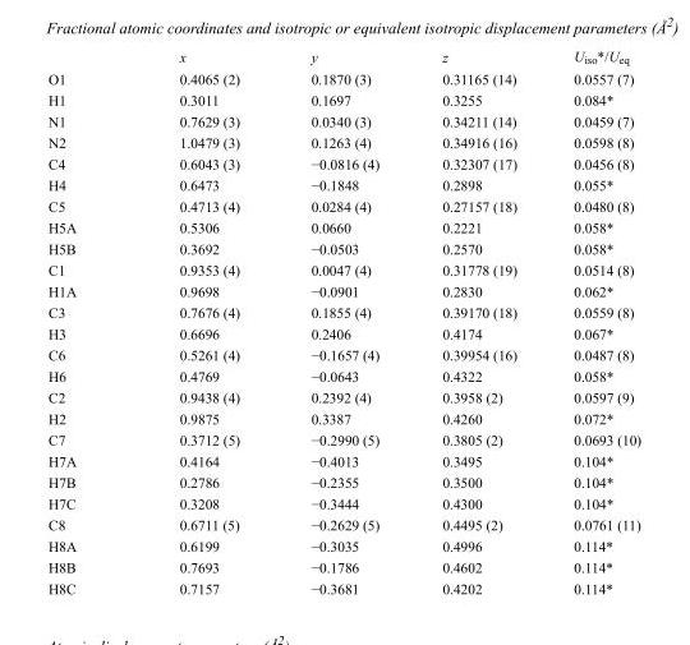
<table><thead><tr><td></td><td>x</td><td>y</td><td>z</td><td>U<sub>iso</sub>*/U<sub>eq</sub></td></tr></thead><tbody><tr><td>O1</td><td>0.4065 (2)</td><td>0.1870 (3)</td><td>0.31165 (14)</td><td>0.0557 (7)</td></tr><tr><td>H1</td><td>0.3011</td><td>0.1697</td><td>0.3255</td><td>0.084*</td></tr><tr><td>N1</td><td>0.7629 (3)</td><td>0.0340 (3)</td><td>0.34211 (14)</td><td>0.0459 (7)</td></tr><tr><td>N2</td><td>1.0479 (3)</td><td>0.1263 (4)</td><td>0.34916 (16)</td><td>0.0598 (8)</td></tr><tr><td>C4</td><td>0.6043 (3)</td><td>−0.0816 (4)</td><td>0.32307 (17)</td><td>0.0456 (8)</td></tr><tr><td>H4</td><td>0.6473</td><td>−0.1848</td><td>0.2898</td><td>0.055*</td></tr><tr><td>C5</td><td>0.4713 (4)</td><td>0.0284 (4)</td><td>0.27157 (18)</td><td>0.0480 (8)</td></tr><tr><td>H5A</td><td>0.5306</td><td>0.0660</td><td>0.2221</td><td>0.058*</td></tr><tr><td>H5B</td><td>0.3692</td><td>−0.0503</td><td>0.2570</td><td>0.058*</td></tr><tr><td>C1</td><td>0.9353 (4)</td><td>0.0047 (4)</td><td>0.31778 (19)</td><td>0.0514 (8)</td></tr><tr><td>H1A</td><td>0.9698</td><td>−0.0901</td><td>0.2830</td><td>0.062*</td></tr><tr><td>C3</td><td>0.7676 (4)</td><td>0.1855 (4)</td><td>0.39170 (18)</td><td>0.0559 (8)</td></tr><tr><td>H3</td><td>0.6696</td><td>0.2406</td><td>0.4174</td><td>0.067*</td></tr><tr><td>C6</td><td>0.5261 (4)</td><td>−0.1657 (4)</td><td>0.39954 (16)</td><td>0.0487 (8)</td></tr><tr><td>H6</td><td>0.4769</td><td>−0.0643</td><td>0.4322</td><td>0.058*</td></tr><tr><td>C2</td><td>0.9438 (4)</td><td>0.2392 (4)</td><td>0.3958 (2)</td><td>0.0597 (9)</td></tr><tr><td>H2</td><td>0.9875</td><td>0.3387</td><td>0.4260</td><td>0.072*</td></tr><tr><td>C7</td><td>0.3712 (5)</td><td>−0.2990 (5)</td><td>0.3805 (2)</td><td>0.0693 (10)</td></tr><tr><td>H7A</td><td>0.4164</td><td>−0.4013</td><td>0.3495</td><td>0.104*</td></tr><tr><td>H7B</td><td>0.2786</td><td>−0.2355</td><td>0.3500</td><td>0.104*</td></tr><tr><td>H7C</td><td>0.3208</td><td>−0.3444</td><td>0.4300</td><td>0.104*</td></tr><tr><td>C8</td><td>0.6711 (5)</td><td>−0.2629 (5)</td><td>0.4495 (2)</td><td>0.0761 (11)</td></tr><tr><td>H8A</td><td>0.6199</td><td>−0.3035</td><td>0.4996</td><td>0.114*</td></tr><tr><td>H8B</td><td>0.7693</td><td>−0.1786</td><td>0.4602</td><td>0.114*</td></tr><tr><td>H8C</td><td>0.7157</td><td>−0.3681</td><td>0.4202</td><td>0.114*</td></tr></tbody></table>